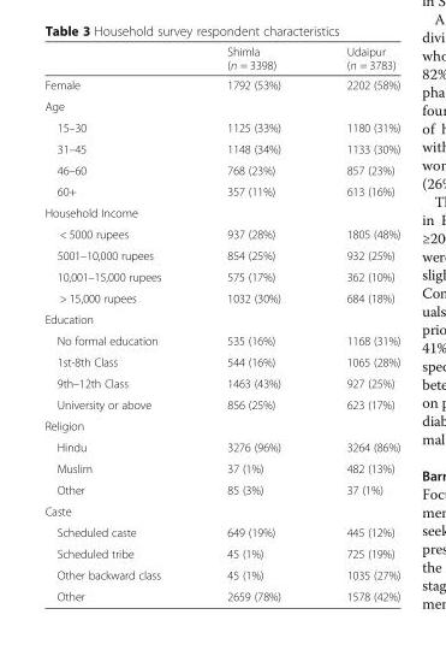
<table><thead><tr><td></td><td>Shimla (n = 3398)</td><td>Udaipur (n = 3783)</td></tr></thead><tbody><tr><td>Female</td><td>1792 (53%)</td><td>2202 (58%)</td></tr><tr><td colspan="3">Age</td></tr><tr><td>15–30</td><td>1125 (33%)</td><td>1180 (31%)</td></tr><tr><td>31–45</td><td>1148 (34%)</td><td>1133 (30%)</td></tr><tr><td>46–60</td><td>768 (23%)</td><td>857 (23%)</td></tr><tr><td>60+</td><td>357 (11%)</td><td>613 (16%)</td></tr><tr><td colspan="3">Household Income</td></tr><tr><td>&lt; 5000 rupees</td><td>937 (28%)</td><td>1805 (48%)</td></tr><tr><td>5001–10,000 rupees</td><td>854 (25%)</td><td>932 (25%)</td></tr><tr><td>10,001–15,000 rupees</td><td>575 (17%)</td><td>362 (10%)</td></tr><tr><td>&gt; 15,000 rupees</td><td>1032 (30%)</td><td>684 (18%)</td></tr><tr><td colspan="3">Education</td></tr><tr><td>No formal education</td><td>535 (16%)</td><td>1168 (31%)</td></tr><tr><td>1st-8th Class</td><td>544 (16%)</td><td>1065 (28%)</td></tr><tr><td>9th–12th Class</td><td>1463 (43%)</td><td>927 (25%)</td></tr><tr><td>University or above</td><td>856 (25%)</td><td>623 (17%)</td></tr><tr><td colspan="3">Religion</td></tr><tr><td>Hindu</td><td>3276 (96%)</td><td>3264 (86%)</td></tr><tr><td>Muslim</td><td>37 (1%)</td><td>482 (13%)</td></tr><tr><td>Other</td><td>85 (3%)</td><td>37 (1%)</td></tr><tr><td colspan="3">Caste</td></tr><tr><td>Scheduled caste</td><td>649 (19%)</td><td>445 (12%)</td></tr><tr><td>Scheduled tribe</td><td>45 (1%)</td><td>725 (19%)</td></tr><tr><td>Other backward class</td><td>45 (1%)</td><td>1035 (27%)</td></tr><tr><td>Other</td><td>2659 (78%)</td><td>1578 (42%)</td></tr></tbody></table>